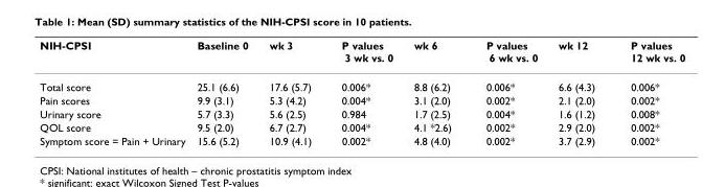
<table><thead><tr><td>NIH-CPSI</td><td>Baseline 0</td><td>wk 3</td><td>P values 3 wk vs. 0</td><td>wk 6</td><td>P values 6 wk vs. 0</td><td>wk 12</td><td>P values 12 wk vs. 0</td></tr></thead><tbody><tr><td>Total score</td><td>25.1 (6.6)</td><td>17.6 (5.7)</td><td>0.006*</td><td>8.8 (6.2)</td><td>0.006*</td><td>6.6 (4.3)</td><td>0.006*</td></tr><tr><td>Pain scores</td><td>9.9 (3.1)</td><td>5.3 (4.2)</td><td>0.004*</td><td>3.1 (2.0)</td><td>0.002*</td><td>2.1 (2.0)</td><td>0.002*</td></tr><tr><td>Urinary score</td><td>5.7 (3.3)</td><td>5.6 (2.5)</td><td>0.984</td><td>1.7 (2.5)</td><td>0.004*</td><td>1.6 (1.2)</td><td>0.008*</td></tr><tr><td>QOL score</td><td>9.5 (2.0)</td><td>6.7 (2.7)</td><td>0.004*</td><td>4.1 *2.6)</td><td>0.002*</td><td>2.9 (2.0)</td><td>0.002*</td></tr><tr><td>Symptom score = Pain + Urinary</td><td>15.6 (5.2)</td><td>10.9 (4.1)</td><td>0.002*</td><td>4.8 (4.0)</td><td>0.002*</td><td>3.7 (2.9)</td><td>0.002*</td></tr></tbody></table>